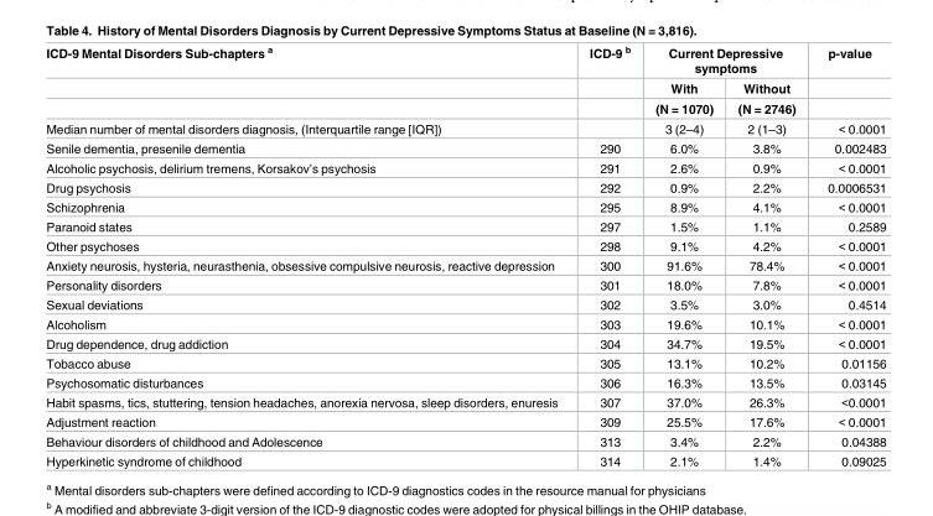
<table><thead><tr><td rowspan="3">ICD-9 Mental Disorders Sub-chapters <sup>a</sup></td><td rowspan="3">ICD-9 <sup>b</sup></td><td colspan="2">Current Depressive symptoms</td><td rowspan="3">p-value</td></tr><tr><td rowspan="2">With (N = 1070)</td><td rowspan="2">Without (N = 2746)</td></tr><tr></tr></thead><tbody><tr><td>Median number of mental disorders diagnosis, (Interquartile range [IQR])</td><td></td><td>3 (2–4)</td><td>2 (1–3)</td><td>&lt; 0.0001</td></tr><tr><td>Senile dementia, presenile dementia</td><td>290</td><td>6.0%</td><td>3.8%</td><td>0.002483</td></tr><tr><td>Alcoholic psychosis, delirium tremens, Korsakov’s psychosis</td><td>291</td><td>2.6%</td><td>0.9%</td><td>&lt; 0.0001</td></tr><tr><td>Drug psychosis</td><td>292</td><td>0.9%</td><td>2.2%</td><td>0.0006531</td></tr><tr><td>Schizophrenia</td><td>295</td><td>8.9%</td><td>4.1%</td><td>&lt; 0.0001</td></tr><tr><td>Paranoid states</td><td>297</td><td>1.5%</td><td>1.1%</td><td>0.2589</td></tr><tr><td>Other psychoses</td><td>298</td><td>9.1%</td><td>4.2%</td><td>&lt; 0.0001</td></tr><tr><td>Anxiety neurosis, hysteria, neurasthenia, obsessive compulsive neurosis, reactive depression</td><td>300</td><td>91.6%</td><td>78.4%</td><td>&lt; 0.0001</td></tr><tr><td>Personality disorders</td><td>301</td><td>18.0%</td><td>7.8%</td><td>&lt; 0.0001</td></tr><tr><td>Sexual deviations</td><td>302</td><td>3.5%</td><td>3.0%</td><td>0.4514</td></tr><tr><td>Alcoholism</td><td>303</td><td>19.6%</td><td>10.1%</td><td>&lt; 0.0001</td></tr><tr><td>Drug dependence, drug addiction</td><td>304</td><td>34.7%</td><td>19.5%</td><td>&lt; 0.0001</td></tr><tr><td>Tobacco abuse</td><td>305</td><td>13.1%</td><td>10.2%</td><td>0.01156</td></tr><tr><td>Psychosomatic disturbances</td><td>306</td><td>16.3%</td><td>13.5%</td><td>0.03145</td></tr><tr><td>Habit spasms, tics, stuttering, tension headaches, anorexia nervosa, sleep disorders, enuresis</td><td>307</td><td>37.0%</td><td>26.3%</td><td>&lt;0.0001</td></tr><tr><td>Adjustment reaction</td><td>309</td><td>25.5%</td><td>17.6%</td><td>&lt; 0.0001</td></tr><tr><td>Behaviour disorders of childhood and Adolescence</td><td>313</td><td>3.4%</td><td>2.2%</td><td>0.04388</td></tr><tr><td>Hyperkinetic syndrome of childhood</td><td>314</td><td>2.1%</td><td>1.4%</td><td>0.09025</td></tr></tbody></table>